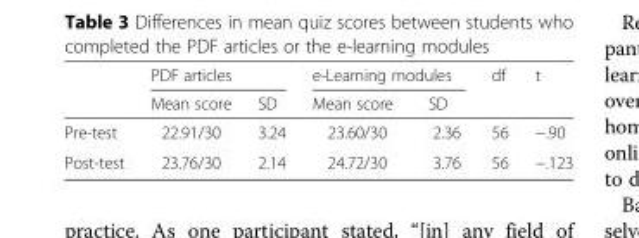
<table><thead><tr><td rowspan="2"></td><td colspan="2">PDF articles</td><td colspan="2">e-Learning modules</td><td rowspan="2">df</td><td rowspan="2">t</td></tr><tr><td>Mean score</td><td>SD</td><td>Mean score</td><td>SD</td></tr></thead><tbody><tr><td>Pre-test</td><td>22.91/30</td><td>3.24</td><td>23.60/30</td><td>2.36</td><td>56</td><td>−.90</td></tr><tr><td>Post-test</td><td>23.76/30</td><td>2.14</td><td>24.72/30</td><td>3.76</td><td>56</td><td>−.123</td></tr></tbody></table>